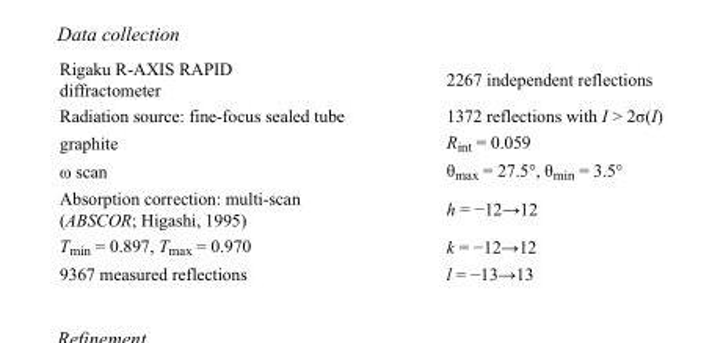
<table><tbody><tr><td>Rigaku R-AXIS RAPID diffractometer</td><td>2267 independent reflections</td></tr><tr><td>Radiation source: fine-focus sealed tube</td><td>1372 reflections with I &gt; 2σ(I)</td></tr><tr><td>graphite</td><td>R<sub>int</sub> = 0.059</td></tr><tr><td>ω scan</td><td>θ<sub>max</sub> = 27.5°, θ<sub>min</sub> = 3.5°</td></tr><tr><td>Absorption correction: multi-scan (ABSCOR; Higashi, 1995)</td><td>h = −12→12</td></tr><tr><td>T<sub>min</sub> = 0.897, T<sub>max</sub> = 0.970</td><td>k = −12→12</td></tr><tr><td>9367 measured reflections</td><td>l = −13→13</td></tr></tbody></table>